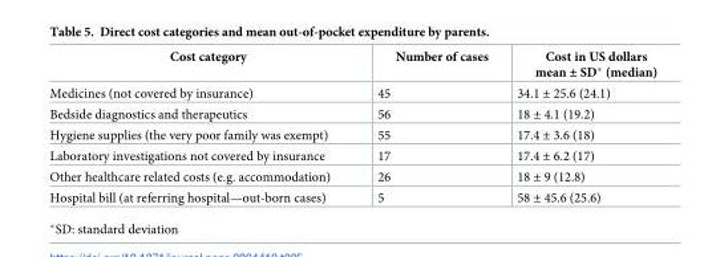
<table><thead><tr><td>Cost category</td><td>Number of cases</td><td>Cost in US dollars mean ± SD* (median)</td></tr></thead><tbody><tr><td>Medicines (not covered by insurance)</td><td>45</td><td>34.1 ± 25.6 (24.1)</td></tr><tr><td>Bedside diagnostics and therapeutics</td><td>56</td><td>18 ± 4.1 (19.2)</td></tr><tr><td>Hygiene supplies (the very poor family was exempt)</td><td>55</td><td>17.4 ± 3.6 (18)</td></tr><tr><td>Laboratory investigations not covered by insurance</td><td>17</td><td>17.4 ± 6.2 (17)</td></tr><tr><td>Other healthcare related costs (e.g. accommodation)</td><td>26</td><td>18 ± 9 (12.8)</td></tr><tr><td>Hospital bill (at referring hospital—out-born cases)</td><td>5</td><td>58 ± 45.6 (25.6)</td></tr></tbody></table>